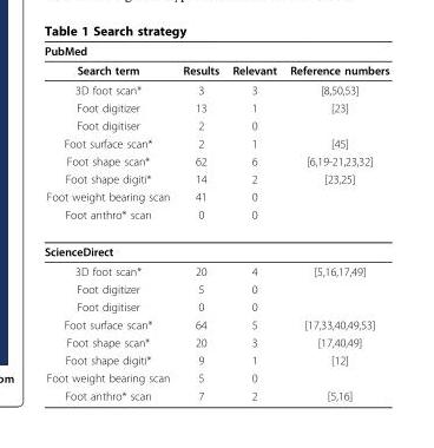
<table><thead><tr><td colspan="4">PubMed</td></tr><tr><td>Search term</td><td>Results</td><td>Relevant</td><td>Reference numbers</td></tr></thead><tbody><tr><td>3D foot scan*</td><td>3</td><td>3</td><td>[8,50,53]</td></tr><tr><td>Foot digitizer</td><td>13</td><td>1</td><td>[23]</td></tr><tr><td>Foot digitiser</td><td>2</td><td>0</td><td></td></tr><tr><td>Foot surface scan*</td><td>2</td><td>1</td><td>[45]</td></tr><tr><td>Foot shape scan*</td><td>62</td><td>6</td><td>[6,19-21,23,32]</td></tr><tr><td>Foot shape digiti*</td><td>14</td><td>2</td><td>[23,25]</td></tr><tr><td>Foot weight bearing scan</td><td>41</td><td>0</td><td></td></tr><tr><td>Foot anthro* scan</td><td>0</td><td>0</td><td></td></tr><tr><td colspan="4">ScienceDirect</td></tr><tr><td>3D foot scan*</td><td>20</td><td>4</td><td>[5,16,17,49]</td></tr><tr><td>Foot digitizer</td><td>5</td><td>0</td><td></td></tr><tr><td>Foot digitiser</td><td>0</td><td>0</td><td></td></tr><tr><td>Foot surface scan*</td><td>64</td><td>5</td><td>[17,33,40,49,53]</td></tr><tr><td>Foot shape scan*</td><td>20</td><td>3</td><td>[17,40,49]</td></tr><tr><td>Foot shape digiti*</td><td>9</td><td>1</td><td>[12]</td></tr><tr><td>Foot weight bearing scan</td><td>5</td><td>0</td><td></td></tr><tr><td>Foot anthro* scan</td><td>7</td><td>2</td><td>[5,16]</td></tr></tbody></table>